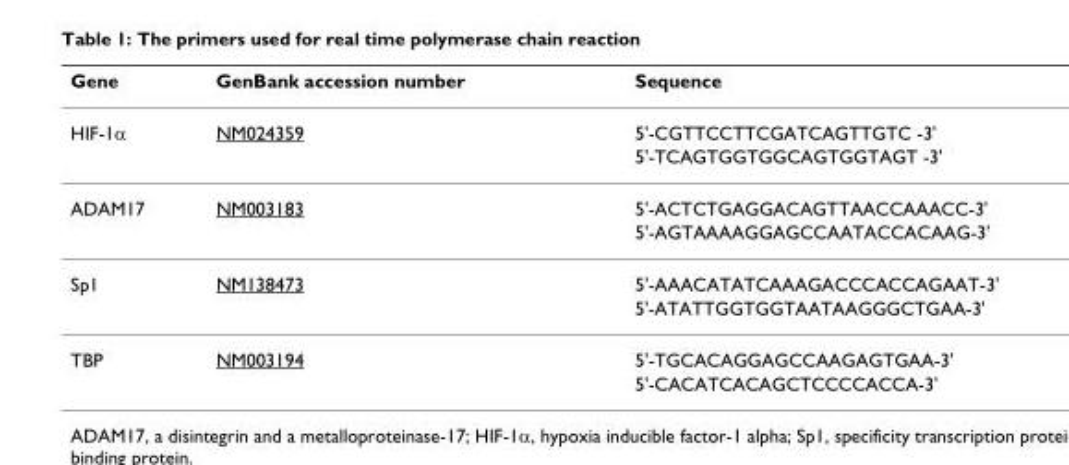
<table><thead><tr><td>Gene</td><td>GenBank accession number</td><td>Sequence</td></tr></thead><tbody><tr><td rowspan="2">HIF-1α</td><td>NM024359</td><td>5&#x27;-CGTTCCTTCGATCAGTTGTC -3&#x27;</td></tr><tr><td></td><td>5&#x27;-TCAGTGGTGGCAGTGGTAGT -3&#x27;</td></tr><tr><td rowspan="2">ADAM17</td><td>NM003183</td><td>5&#x27;-ACTCTGAGGACAGTTAACCAAACC-3&#x27;</td></tr><tr><td></td><td>5&#x27;-AGTAAAAGGAGCCAATACCACAAG-3&#x27;</td></tr><tr><td rowspan="2">Sp1</td><td>NM138473</td><td>5&#x27;-AAACATATCAAAGACCCACCAGAAT-3&#x27;</td></tr><tr><td></td><td>5&#x27;-ATATTGGTGGTAATAAGGGCTGAA-3&#x27;</td></tr><tr><td rowspan="2">TBP</td><td>NM003194</td><td>5&#x27;-TGCACAGGAGCCAAGAGTGAA-3&#x27;</td></tr><tr><td></td><td>5&#x27;-CACATCACAGCTCCCCACCA-3&#x27;</td></tr></tbody></table>